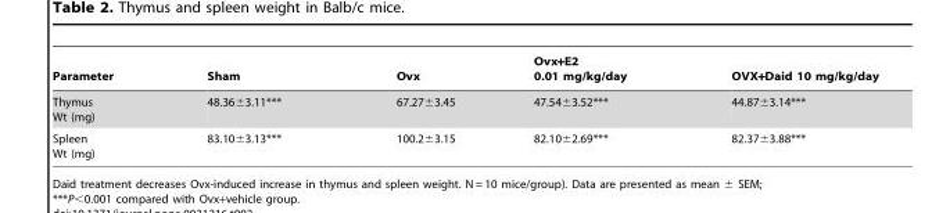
<table><thead><tr><td>Parameter</td><td>Sham</td><td>Ovx</td><td>Ovx+E2 0.01 mg/kg/day</td><td>OVX+Daid 10 mg/kg/day</td></tr></thead><tbody><tr><td>Thymus Wt (mg)</td><td>48.36±3.11***</td><td>67.27±3.45</td><td>47.54±3.52***</td><td>44.87±3.14***</td></tr><tr><td>Spleen Wt (mg)</td><td>83.10±3.13***</td><td>100.2±3.15</td><td>82.10±2.69***</td><td>82.37±3.88***</td></tr></tbody></table>